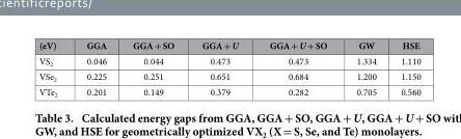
<table><thead><tr><td>(eV)</td><td>GGA</td><td>GGA + SO</td><td>GGA + U</td><td>GGA + U + SO</td><td>GW</td><td>HSE</td></tr></thead><tbody><tr><td>VS<sub>2</sub></td><td>0.046</td><td>0.044</td><td>0.473</td><td>0.473</td><td>1.334</td><td>1.110</td></tr><tr><td>VSe<sub>2</sub></td><td>0.225</td><td>0.251</td><td>0.651</td><td>0.684</td><td>1.200</td><td>1.150</td></tr><tr><td>VTe<sub>2</sub></td><td>0.201</td><td>0.149</td><td>0.379</td><td>0.282</td><td>0.705</td><td>0.560</td></tr></tbody></table>